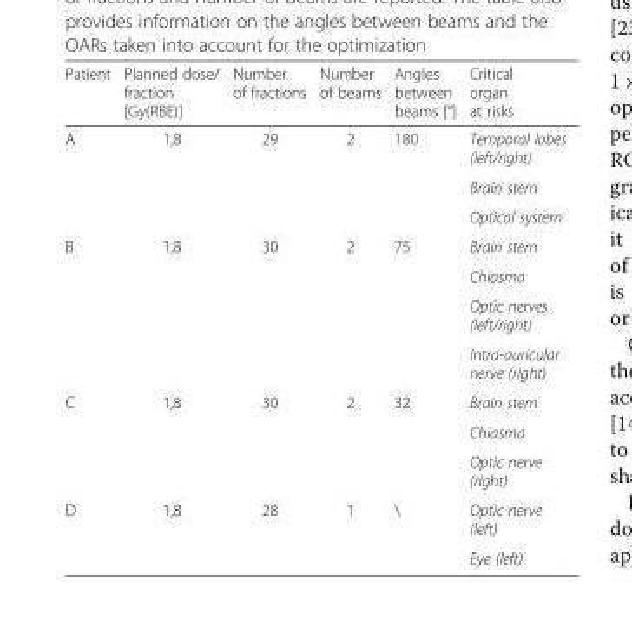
<table><thead><tr><td>Patient</td><td>Planned dose/ fraction [Gy(RBE)]</td><td>Number of fractions</td><td>Number of beams</td><td>Angles between beams [°]</td><td>Critical organ at risks</td></tr></thead><tbody><tr><td rowspan="3">A</td><td rowspan="3">1,8</td><td rowspan="3">29</td><td rowspan="3">2</td><td rowspan="3">180</td><td>Temporal lobes (left/right)</td></tr><tr><td>Brain stem</td></tr><tr><td>Optical system</td></tr><tr><td rowspan="4">B</td><td rowspan="4">1,8</td><td rowspan="4">30</td><td rowspan="4">2</td><td rowspan="4">75</td><td>Brain stem</td></tr><tr><td>Chiasma</td></tr><tr><td>Optic nerves (left/right)</td></tr><tr><td>Intra-auricular nerve (right)</td></tr><tr><td rowspan="3">C</td><td rowspan="3">1,8</td><td rowspan="3">30</td><td rowspan="3">2</td><td rowspan="3">32</td><td>Brain stem</td></tr><tr><td>Chiasma</td></tr><tr><td>Optic nerve (right)</td></tr><tr><td rowspan="2">D</td><td rowspan="2">1,8</td><td rowspan="2">28</td><td rowspan="2">1</td><td rowspan="2">\</td><td>Optic nerve (left)</td></tr><tr><td>Eye (left)</td></tr></tbody></table>